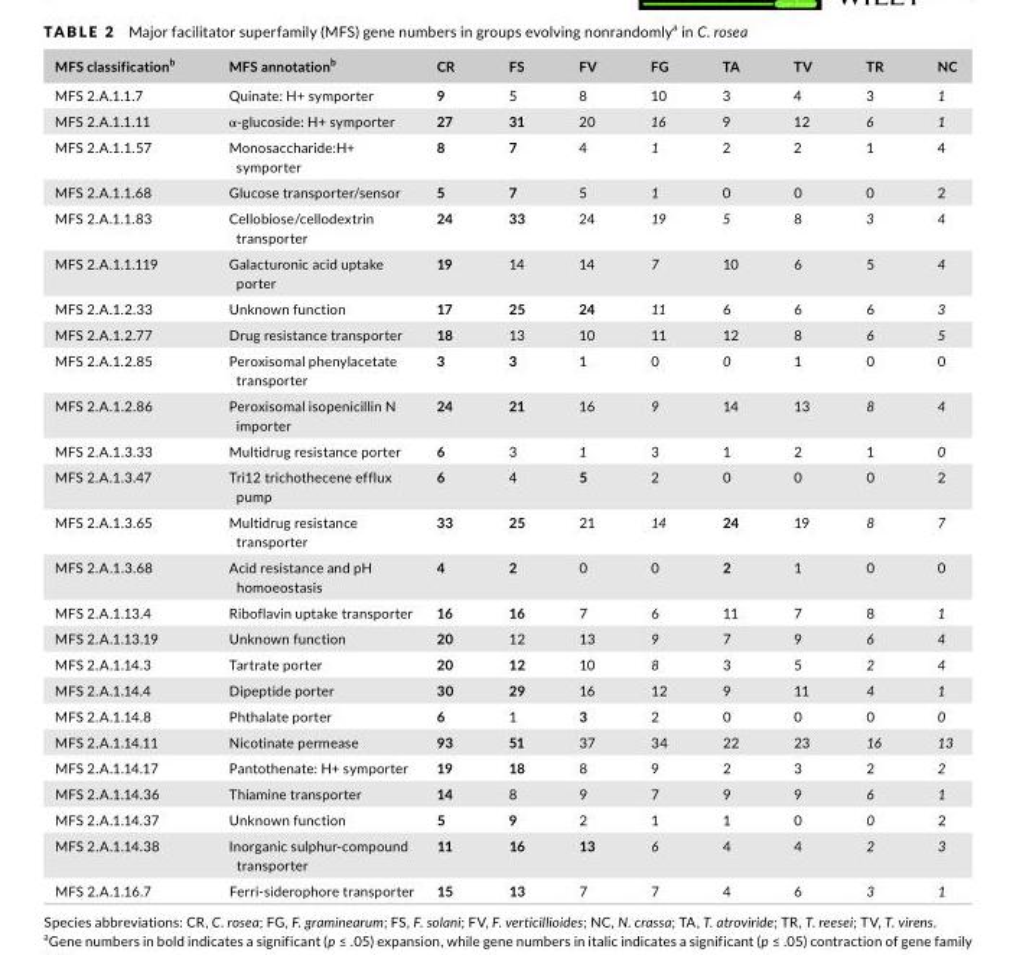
<table><thead><tr><td>MFS classification<sup>b</sup></td><td>MFS annotation<sup>b</sup></td><td>CR</td><td>FS</td><td>FV</td><td>FG</td><td>TA</td><td>TV</td><td>TR</td><td>NC</td></tr></thead><tbody><tr><td>MFS 2.A.1.1.7</td><td>Quinate: H+ symporter</td><td>9</td><td>5</td><td>8</td><td>10</td><td>3</td><td>4</td><td>3</td><td>1</td></tr><tr><td>MFS 2.A.1.1.11</td><td>α- glucoside: H+ symporter</td><td>27</td><td>31</td><td>20</td><td>16</td><td>9</td><td>12</td><td>6</td><td>1</td></tr><tr><td>MFS 2.A.1.1.57</td><td>Monosaccharide:H+ symporter</td><td>8</td><td>7</td><td>4</td><td>1</td><td>2</td><td>2</td><td>1</td><td>4</td></tr><tr><td>MFS 2.A.1.1.68</td><td>Glucose transporter/sensor</td><td>5</td><td>7</td><td>5</td><td>1</td><td>0</td><td>0</td><td>0</td><td>2</td></tr><tr><td>MFS 2.A.1.1.83</td><td>Cellobiose/cellodextrin transporter</td><td>24</td><td>33</td><td>24</td><td>19</td><td>5</td><td>8</td><td>3</td><td>4</td></tr><tr><td>MFS 2.A.1.1.119</td><td>Galacturonic acid uptake porter</td><td>19</td><td>14</td><td>14</td><td>7</td><td>10</td><td>6</td><td>5</td><td>4</td></tr><tr><td>MFS 2.A.1.2.33</td><td>Unknown function</td><td>17</td><td>25</td><td>24</td><td>11</td><td>6</td><td>6</td><td>6</td><td>3</td></tr><tr><td>MFS 2.A.1.2.77</td><td>Drug resistance transporter</td><td>18</td><td>13</td><td>10</td><td>11</td><td>12</td><td>8</td><td>6</td><td>5</td></tr><tr><td>MFS 2.A.1.2.85</td><td>Peroxisomal phenylacetate transporter</td><td>3</td><td>3</td><td>1</td><td>0</td><td>0</td><td>1</td><td>0</td><td>0</td></tr><tr><td>MFS 2.A.1.2.86</td><td>Peroxisomal isopenicillin N importer</td><td>24</td><td>21</td><td>16</td><td>9</td><td>14</td><td>13</td><td>8</td><td>4</td></tr><tr><td>MFS 2.A.1.3.33</td><td>Multidrug resistance porter</td><td>6</td><td>3</td><td>1</td><td>3</td><td>1</td><td>2</td><td>1</td><td>0</td></tr><tr><td>MFS 2.A.1.3.47</td><td>Tri12 trichothecene efflux pump</td><td>6</td><td>4</td><td>5</td><td>2</td><td>0</td><td>0</td><td>0</td><td>2</td></tr><tr><td>MFS 2.A.1.3.65</td><td>Multidrug resistance transporter</td><td>33</td><td>25</td><td>21</td><td>14</td><td>24</td><td>19</td><td>8</td><td>7</td></tr><tr><td>MFS 2.A.1.3.68</td><td>Acid resistance and pH homoeostasis</td><td>4</td><td>2</td><td>0</td><td>0</td><td>2</td><td>1</td><td>0</td><td>0</td></tr><tr><td>MFS 2.A.1.13.4</td><td>Riboflavin uptake transporter</td><td>16</td><td>16</td><td>7</td><td>6</td><td>11</td><td>7</td><td>8</td><td>1</td></tr><tr><td>MFS 2.A.1.13.19</td><td>Unknown function</td><td>20</td><td>12</td><td>13</td><td>9</td><td>7</td><td>9</td><td>6</td><td>4</td></tr><tr><td>MFS 2.A.1.14.3</td><td>Tartrate porter</td><td>20</td><td>12</td><td>10</td><td>8</td><td>3</td><td>5</td><td>2</td><td>4</td></tr><tr><td>MFS 2.A.1.14.4</td><td>Dipeptide porter</td><td>30</td><td>29</td><td>16</td><td>12</td><td>9</td><td>11</td><td>4</td><td>1</td></tr><tr><td>MFS 2.A.1.14.8</td><td>Phthalate porter</td><td>6</td><td>1</td><td>3</td><td>2</td><td>0</td><td>0</td><td>0</td><td>0</td></tr><tr><td>MFS 2.A.1.14.11</td><td>Nicotinate permease</td><td>93</td><td>51</td><td>37</td><td>34</td><td>22</td><td>23</td><td>16</td><td>13</td></tr><tr><td>MFS 2.A.1.14.17</td><td>Pantothenate: H+ symporter</td><td>19</td><td>18</td><td>8</td><td>9</td><td>2</td><td>3</td><td>2</td><td>2</td></tr><tr><td>MFS 2.A.1.14.36</td><td>Thiamine transporter</td><td>14</td><td>8</td><td>9</td><td>7</td><td>9</td><td>9</td><td>6</td><td>1</td></tr><tr><td>MFS 2.A.1.14.37</td><td>Unknown function</td><td>5</td><td>9</td><td>2</td><td>1</td><td>1</td><td>0</td><td>0</td><td>2</td></tr><tr><td>MFS 2.A.1.14.38</td><td>Inorganic sulphur- compound transporter</td><td>11</td><td>16</td><td>13</td><td>6</td><td>4</td><td>4</td><td>2</td><td>3</td></tr><tr><td>MFS 2.A.1.16.7</td><td>Ferri- siderophore transporter</td><td>15</td><td>13</td><td>7</td><td>7</td><td>4</td><td>6</td><td>3</td><td>1</td></tr></tbody></table>